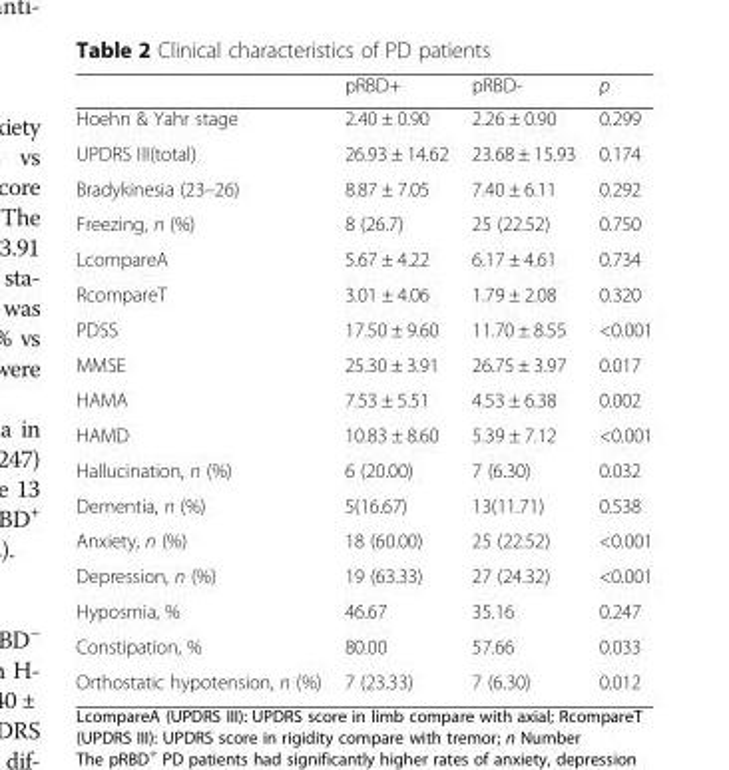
<table><thead><tr><td></td><td>pRBD+</td><td>pRBD-</td><td>p</td></tr></thead><tbody><tr><td>Hoehn &amp; Yahr stage</td><td>2.40 ± 0.90</td><td>2.26 ± 0.90</td><td>0.299</td></tr><tr><td>UPDRS III(total)</td><td>26.93 ± 14.62</td><td>23.68 ± 15.93</td><td>0.174</td></tr><tr><td>Bradykinesia (23–26)</td><td>8.87 ± 7.05</td><td>7.40 ± 6.11</td><td>0.292</td></tr><tr><td>Freezing, n (%)</td><td>8 (26.7)</td><td>25 (22.52)</td><td>0.750</td></tr><tr><td>LcompareA</td><td>5.67 ± 4.22</td><td>6.17 ± 4.61</td><td>0.734</td></tr><tr><td>RcompareT</td><td>3.01 ± 4.06</td><td>1.79 ± 2.08</td><td>0.320</td></tr><tr><td>PDSS</td><td>17.50 ± 9.60</td><td>11.70 ± 8.55</td><td>&lt;0.001</td></tr><tr><td>MMSE</td><td>25.30 ± 3.91</td><td>26.75 ± 3.97</td><td>0.017</td></tr><tr><td>HAMA</td><td>7.53 ± 5.51</td><td>4.53 ± 6.38</td><td>0.002</td></tr><tr><td>HAMD</td><td>10.83 ± 8.60</td><td>5.39 ± 7.12</td><td>&lt;0.001</td></tr><tr><td>Hallucination, n (%)</td><td>6 (20.00)</td><td>7 (6.30)</td><td>0.032</td></tr><tr><td>Dementia, n (%)</td><td>5(16.67)</td><td>13(11.71)</td><td>0.538</td></tr><tr><td>Anxiety, n (%)</td><td>18 (60.00)</td><td>25 (22.52)</td><td>&lt;0.001</td></tr><tr><td>Depression, n (%)</td><td>19 (63.33)</td><td>27 (24.32)</td><td>&lt;0.001</td></tr><tr><td>Hyposmia, %</td><td>46.67</td><td>35.16</td><td>0.247</td></tr><tr><td>Constipation, %</td><td>80.00</td><td>57.66</td><td>0.033</td></tr><tr><td>Orthostatic hypotension, n (%)</td><td>7 (23.33)</td><td>7 (6.30)</td><td>0.012</td></tr></tbody></table>